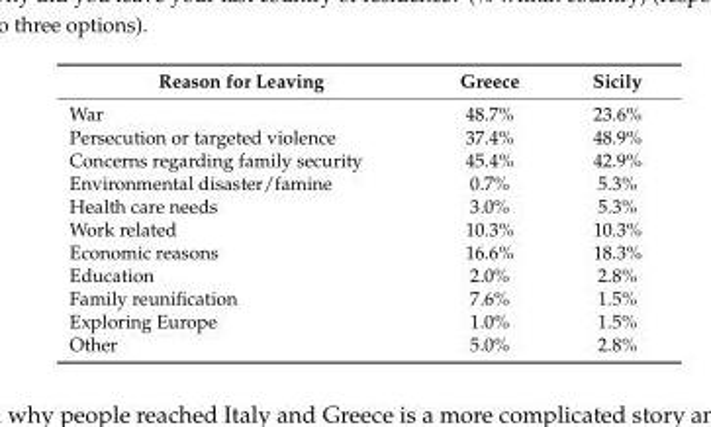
<table><thead><tr><td>Reason for Leaving</td><td>Greece</td><td>Sicily</td></tr></thead><tbody><tr><td>War</td><td>48.7%</td><td>23.6%</td></tr><tr><td>Persecution or targeted violence</td><td>37.4%</td><td>48.9%</td></tr><tr><td>Concerns regarding family security</td><td>45.4%</td><td>42.9%</td></tr><tr><td>Environmental disaster/famine</td><td>0.7%</td><td>5.3%</td></tr><tr><td>Health care needs</td><td>3.0%</td><td>5.3%</td></tr><tr><td>Work related</td><td>10.3%</td><td>10.3%</td></tr><tr><td>Economic reasons</td><td>16.6%</td><td>18.3%</td></tr><tr><td>Education</td><td>2.0%</td><td>2.8%</td></tr><tr><td>Family reunification</td><td>7.6%</td><td>1.5%</td></tr><tr><td>Exploring Europe</td><td>1.0%</td><td>1.5%</td></tr><tr><td>Other</td><td>5.0%</td><td>2.8%</td></tr></tbody></table>